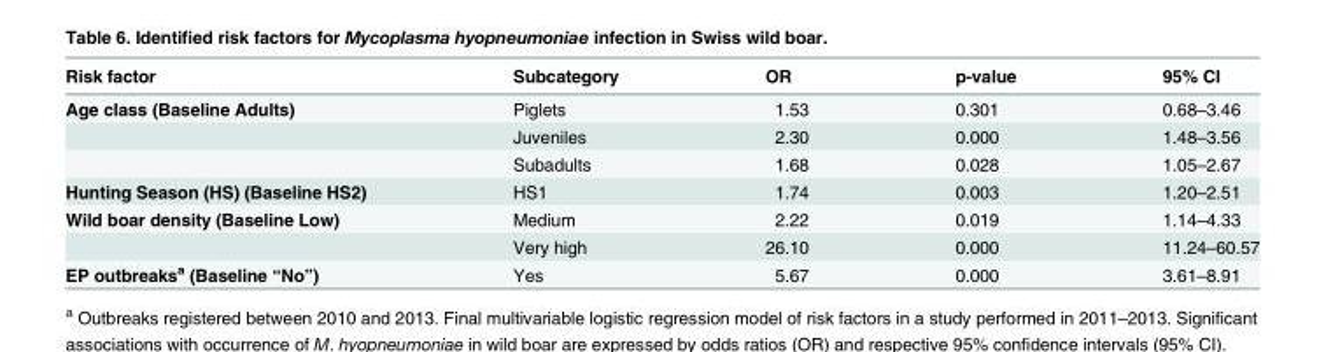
<table><thead><tr><td>Risk factor</td><td>Subcategory</td><td>OR</td><td>p-value</td><td>95% CI</td></tr></thead><tbody><tr><td rowspan="3">Age class (Baseline Adults)</td><td>Piglets</td><td>1.53</td><td>0.301</td><td>0.68–3.46</td></tr><tr><td>Juveniles</td><td>2.30</td><td>0.000</td><td>1.48–3.56</td></tr><tr><td>Subadults</td><td>1.68</td><td>0.028</td><td>1.05–2.67</td></tr><tr><td>Hunting Season (HS) (Baseline HS2)</td><td>HS1</td><td>1.74</td><td>0.003</td><td>1.20–2.51</td></tr><tr><td rowspan="2">Wild boar density (Baseline Low)</td><td>Medium</td><td>2.22</td><td>0.019</td><td>1.14–4.33</td></tr><tr><td>Very high</td><td>26.10</td><td>0.000</td><td>11.24–60.57</td></tr><tr><td>EP outbreaks<sup>a</sup> (Baseline “No”)</td><td>Yes</td><td>5.67</td><td>0.000</td><td>3.61–8.91</td></tr></tbody></table>